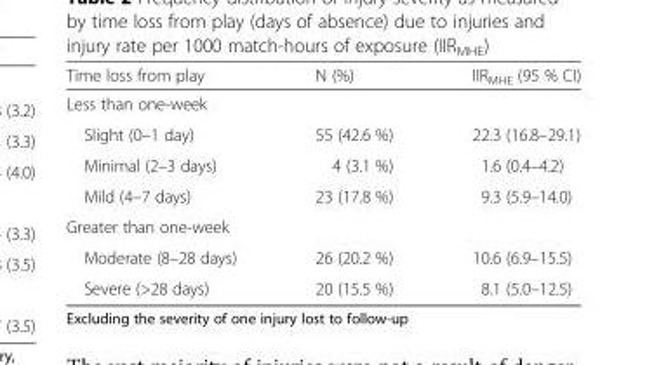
<table><thead><tr><td>Time loss from play</td><td>N (%)</td><td>IIR<sub>MHE</sub> (95 % CI)</td></tr></thead><tbody><tr><td colspan="3">Less than one-week</td></tr><tr><td>Slight (0–1 day)</td><td>55 (42.6 %)</td><td>22.3 (16.8–29.1)</td></tr><tr><td>Minimal (2–3 days)</td><td>4 (3.1 %)</td><td>1.6 (0.4–4.2)</td></tr><tr><td>Mild (4–7 days)</td><td>23 (17.8 %)</td><td>9.3 (5.9–14.0)</td></tr><tr><td colspan="3">Greater than one-week</td></tr><tr><td>Moderate (8–28 days)</td><td>26 (20.2 %)</td><td>10.6 (6.9–15.5)</td></tr><tr><td>Severe (&gt;28 days)</td><td>20 (15.5 %)</td><td>8.1 (5.0–12.5)</td></tr></tbody></table>